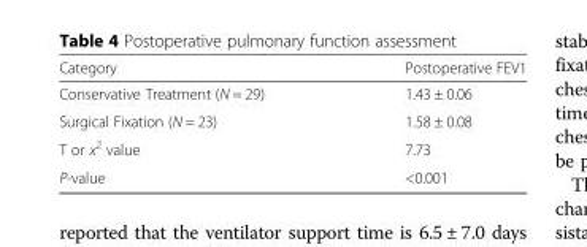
<table><thead><tr><td>Category</td><td>Postoperative FEV1</td></tr></thead><tbody><tr><td>Conservative Treatment (N = 29)</td><td>1.43 ± 0.06</td></tr><tr><td>Surgical Fixation (N = 23)</td><td>1.58 ± 0.08</td></tr><tr><td>T or x<sup>2</sup> value</td><td>7.73</td></tr><tr><td>P-value</td><td>&lt;0.001</td></tr></tbody></table>